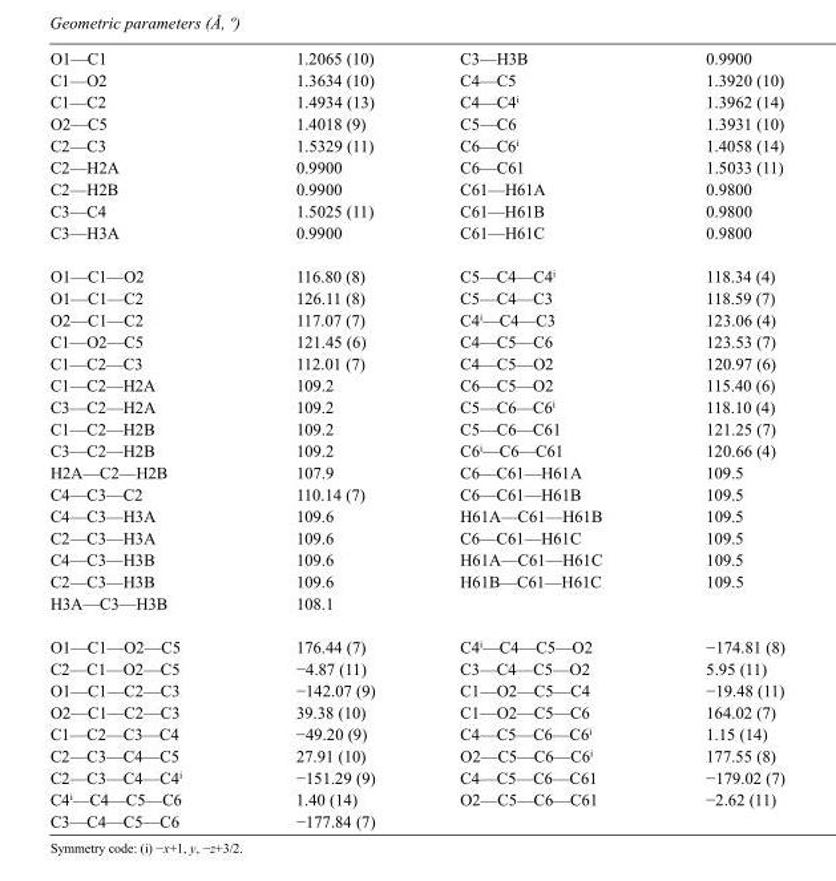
<table><tbody><tr><td>O1—C1</td><td>1.2065 (10)</td><td>C3—H3B</td><td>0.9900</td></tr><tr><td>C1—O2</td><td>1.3634 (10)</td><td>C4—C5</td><td>1.3920 (10)</td></tr><tr><td>C1—C2</td><td>1.4934 (13)</td><td>C4—C4<sup>i</sup></td><td>1.3962 (14)</td></tr><tr><td>O2—C5</td><td>1.4018 (9)</td><td>C5—C6</td><td>1.3931 (10)</td></tr><tr><td>C2—C3</td><td>1.5329 (11)</td><td>C6—C6<sup>i</sup></td><td>1.4058 (14)</td></tr><tr><td>C2—H2A</td><td>0.9900</td><td>C6—C61</td><td>1.5033 (11)</td></tr><tr><td>C2—H2B</td><td>0.9900</td><td>C61—H61A</td><td>0.9800</td></tr><tr><td>C3—C4</td><td>1.5025 (11)</td><td>C61—H61B</td><td>0.9800</td></tr><tr><td>C3—H3A</td><td>0.9900</td><td>C61—H61C</td><td>0.9800</td></tr><tr><td>O1—C1—O2</td><td>116.80 (8)</td><td>C5—C4—C4<sup>i</sup></td><td>118.34 (4)</td></tr><tr><td>O1—C1—C2</td><td>126.11 (8)</td><td>C5—C4—C3</td><td>118.59 (7)</td></tr><tr><td>O2—C1—C2</td><td>117.07 (7)</td><td>C4<sup>i</sup>—C4—C3</td><td>123.06 (4)</td></tr><tr><td>C1—O2—C5</td><td>121.45 (6)</td><td>C4—C5—C6</td><td>123.53 (7)</td></tr><tr><td>C1—C2—C3</td><td>112.01 (7)</td><td>C4—C5—O2</td><td>120.97 (6)</td></tr><tr><td>C1—C2—H2A</td><td>109.2</td><td>C6—C5—O2</td><td>115.40 (6)</td></tr><tr><td>C3—C2—H2A</td><td>109.2</td><td>C5—C6—C6<sup>i</sup></td><td>118.10 (4)</td></tr><tr><td>C1—C2—H2B</td><td>109.2</td><td>C5—C6—C61</td><td>121.25 (7)</td></tr><tr><td>C3—C2—H2B</td><td>109.2</td><td>C6<sup>i</sup>—C6—C61</td><td>120.66 (4)</td></tr><tr><td>H2A—C2—H2B</td><td>107.9</td><td>C6—C61—H61A</td><td>109.5</td></tr><tr><td>C4—C3—C2</td><td>110.14 (7)</td><td>C6—C61—H61B</td><td>109.5</td></tr><tr><td>C4—C3—H3A</td><td>109.6</td><td>H61A—C61—H61B</td><td>109.5</td></tr><tr><td>C2—C3—H3A</td><td>109.6</td><td>C6—C61—H61C</td><td>109.5</td></tr><tr><td>C4—C3—H3B</td><td>109.6</td><td>H61A—C61—H61C</td><td>109.5</td></tr><tr><td>C2—C3—H3B</td><td>109.6</td><td>H61B—C61—H61C</td><td>109.5</td></tr><tr><td>H3A—C3—H3B</td><td>108.1</td><td></td><td></td></tr><tr><td>O1—C1—O2—C5</td><td>176.44 (7)</td><td>C4<sup>i</sup>—C4—C5—O2</td><td>−174.81 (8)</td></tr><tr><td>C2—C1—O2—C5</td><td>−4.87 (11)</td><td>C3—C4—C5—O2</td><td>5.95 (11)</td></tr><tr><td>O1—C1—C2—C3</td><td>−142.07 (9)</td><td>C1—O2—C5—C4</td><td>−19.48 (11)</td></tr><tr><td>O2—C1—C2—C3</td><td>39.38 (10)</td><td>C1—O2—C5—C6</td><td>164.02 (7)</td></tr><tr><td>C1—C2—C3—C4</td><td>−49.20 (9)</td><td>C4—C5—C6—C6<sup>i</sup></td><td>1.15 (14)</td></tr><tr><td>C2—C3—C4—C5</td><td>27.91 (10)</td><td>O2—C5—C6—C6<sup>i</sup></td><td>177.55 (8)</td></tr><tr><td>C2—C3—C4—C4<sup>i</sup></td><td>−151.29 (9)</td><td>C4—C5—C6—C61</td><td>−179.02 (7)</td></tr><tr><td>C4<sup>i</sup>—C4—C5—C6</td><td>1.40 (14)</td><td>O2—C5—C6—C61</td><td>−2.62 (11)</td></tr><tr><td>C3—C4—C5—C6</td><td>−177.84 (7)</td><td></td><td></td></tr></tbody></table>